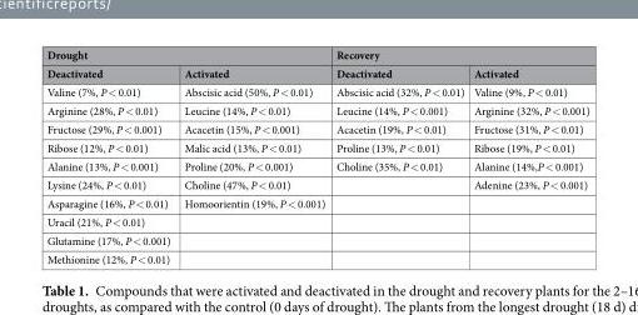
<table><thead><tr><td colspan="2">Drought</td><td colspan="2">Recovery</td></tr><tr><td>Deactivated</td><td>Activated</td><td>Deactivated</td><td>Activated</td></tr></thead><tbody><tr><td>Valine (7%, P &lt; 0.01)</td><td>Abscisic acid (50%, P &lt; 0.01)</td><td>Abscisic acid (32%, P &lt; 0.01)</td><td>Valine (9%, P &lt; 0.01)</td></tr><tr><td>Arginine (28%, P &lt; 0.01)</td><td>Leucine (14%, P &lt; 0.01)</td><td>Leucine (14%, P &lt; 0.001)</td><td>Arginine (32%, P &lt; 0.001)</td></tr><tr><td>Fructose (29%, P &lt; 0.001)</td><td>Acacetin (15%, P &lt; 0.001)</td><td>Acacetin (19%, P &lt; 0.01)</td><td>Fructose (31%, P &lt; 0.01)</td></tr><tr><td>Ribose (12%, P &lt; 0.01)</td><td>Malic acid (13%, P &lt; 0.01)</td><td>Proline (13%, P &lt; 0.01)</td><td>Ribose (19%, P &lt; 0.01)</td></tr><tr><td>Alanine (13%, P &lt; 0.001)</td><td>Proline (20%, P &lt; 0.001)</td><td>Choline (35%, P &lt; 0.01)</td><td>Alanine (14%,P &lt; 0.001)</td></tr><tr><td>Lysine (24%, P &lt; 0.01)</td><td>Choline (47%, P &lt; 0.01)</td><td></td><td>Adenine (23%, P &lt; 0.001)</td></tr><tr><td>Asparagine (16%, P &lt; 0.01)</td><td>Homoorientin (19%, P &lt; 0.001)</td><td></td><td></td></tr><tr><td colspan="4">Uracil (21%, P &lt; 0.01)</td></tr><tr><td colspan="4">Glutamine (17%, P &lt; 0.001)</td></tr><tr><td>Methionine (12%, P &lt; 0.01)</td><td></td><td></td><td></td></tr></tbody></table>